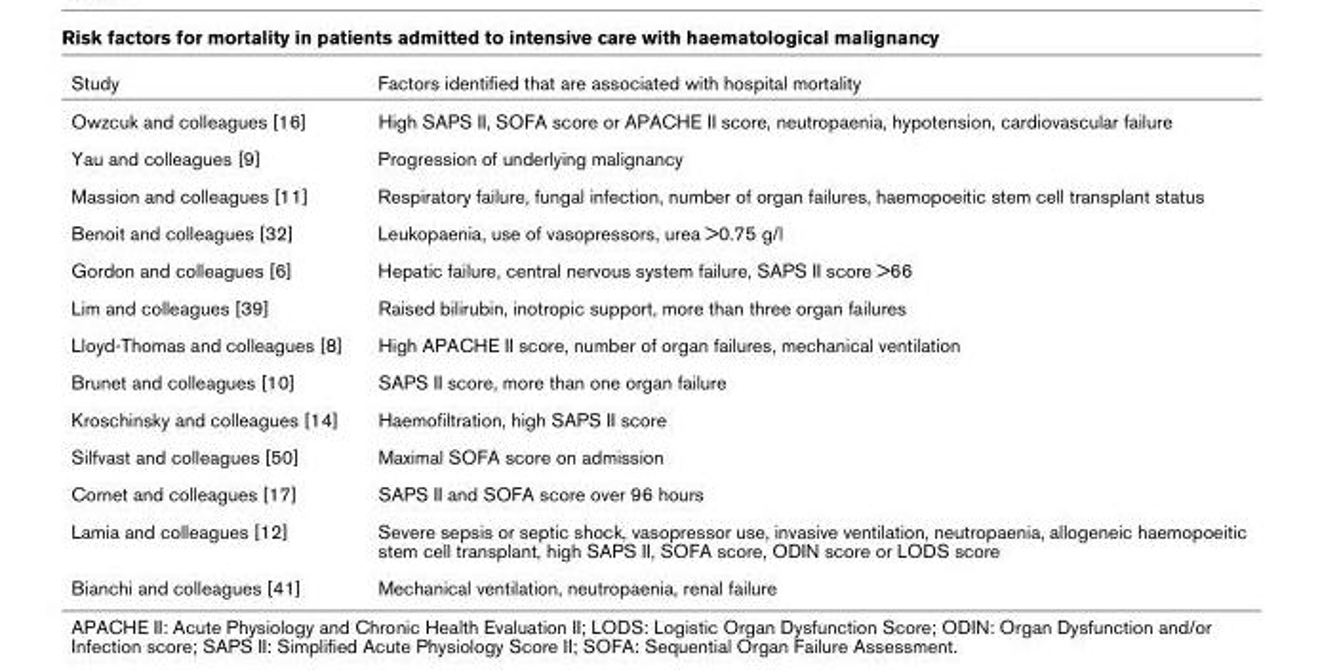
<table><thead><tr><td>Study</td><td>Factors identified that are associated with hospital mortality</td></tr></thead><tbody><tr><td>Owzcuk and colleagues [16]</td><td>High SAPS II, SOFA score or APACHE II score, neutropaenia, hypotension, cardiovascular failure</td></tr><tr><td>Yau and colleagues [9]</td><td>Progression of underlying malignancy</td></tr><tr><td>Massion and colleagues [11]</td><td>Respiratory failure, fungal infection, number of organ failures, haemopoeitic stem cell transplant status</td></tr><tr><td>Benoit and colleagues [32]</td><td>Leukopaenia, use of vasopressors, urea &gt;0.75 g/l</td></tr><tr><td>Gordon and colleagues [6]</td><td>Hepatic failure, central nervous system failure, SAPS II score &gt;66</td></tr><tr><td>Lim and colleagues [39]</td><td>Raised bilirubin, inotropic support, more than three organ failures</td></tr><tr><td>Lloyd-Thomas and colleagues [8]</td><td>High APACHE II score, number of organ failures, mechanical ventilation</td></tr><tr><td>Brunet and colleagues [10]</td><td>SAPS II score, more than one organ failure</td></tr><tr><td>Kroschinsky and colleagues [14]</td><td>Haemofiltration, high SAPS II score</td></tr><tr><td>Silfvast and colleagues [50]</td><td>Maximal SOFA score on admission</td></tr><tr><td>Cornet and colleagues [17]</td><td>SAPS II and SOFA score over 96 hours</td></tr><tr><td>Lamia and colleagues [12]</td><td>Severe sepsis or septic shock, vasopressor use, invasive ventilation, neutropaenia, allogeneic haemopoeitic stem cell transplant, high SAPS II, SOFA score, ODIN score or LODS score</td></tr><tr><td>Bianchi and colleagues [41]</td><td>Mechanical ventilation, neutropaenia, renal failure</td></tr></tbody></table>